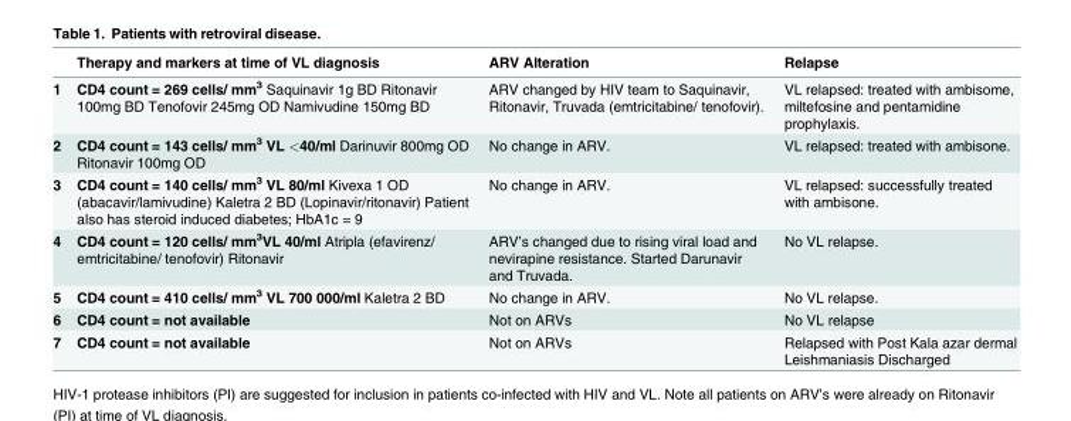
<table><thead><tr><td></td><td>Therapy and markers at time of VL diagnosis</td><td>ARV Alteration</td><td>Relapse</td></tr></thead><tbody><tr><td>1</td><td>CD4 count = 269 cells/ mm<sup>3</sup> Saquinavir 1g BD Ritonavir 100mg BD Tenofovir 245mg OD Namivudine 150mg BD</td><td>ARV changed by HIV team to Saquinavir, Ritonavir, Truvada (emtricitabine/ tenofovir).</td><td>VL relapsed: treated with ambisome, miltefosine and pentamidine prophylaxis.</td></tr><tr><td>2</td><td>CD4 count = 143 cells/ mm<sup>3</sup> VL &lt;40/ml Darinuvir 800mg OD Ritonavir 100mg OD</td><td>No change in ARV.</td><td>VL relapsed: treated with ambisone.</td></tr><tr><td>3</td><td>CD4 count = 140 cells/ mm<sup>3</sup> VL 80/ml Kivexa 1 OD (abacavir/lamivudine) Kaletra 2 BD (Lopinavir/ritonavir) Patient also has steroid induced diabetes; HbA1c = 9</td><td>No change in ARV.</td><td>VL relapsed: successfully treated with ambisone.</td></tr><tr><td>4</td><td>CD4 count = 120 cells/ mm<sup>3</sup>VL 40/ml Atripla (efavirenz/ emtricitabine/ tenofovir) Ritonavir</td><td>ARV’s changed due to rising viral load and nevirapine resistance. Started Darunavir and Truvada.</td><td>No VL relapse.</td></tr><tr><td>5</td><td>CD4 count = 410 cells/ mm<sup>3</sup> VL 700 000/ml Kaletra 2 BD</td><td>No change in ARV.</td><td>No VL relapse.</td></tr><tr><td>6</td><td>CD4 count = not available</td><td>Not on ARVs</td><td>No VL relapse</td></tr><tr><td>7</td><td>CD4 count = not available</td><td>Not on ARVs</td><td>Relapsed with Post Kala azar dermal Leishmaniasis Discharged</td></tr></tbody></table>